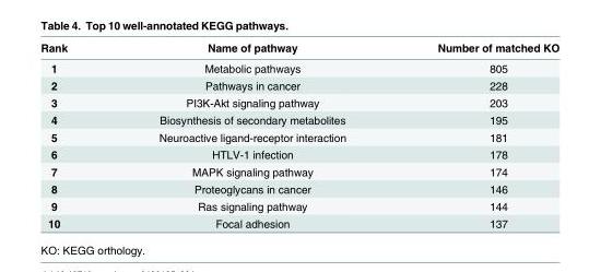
<table><thead><tr><td>Rank</td><td>Name of pathway</td><td>Number of matched KO</td></tr></thead><tbody><tr><td>1</td><td>Metabolic pathways</td><td>805</td></tr><tr><td>2</td><td>Pathways in cancer</td><td>228</td></tr><tr><td>3</td><td>PI3K-Akt signaling pathway</td><td>203</td></tr><tr><td>4</td><td>Biosynthesis of secondary metabolites</td><td>195</td></tr><tr><td>5</td><td>Neuroactive ligand-receptor interaction</td><td>181</td></tr><tr><td>6</td><td>HTLV-1 infection</td><td>178</td></tr><tr><td>7</td><td>MAPK signaling pathway</td><td>174</td></tr><tr><td>8</td><td>Proteoglycans in cancer</td><td>146</td></tr><tr><td>9</td><td>Ras signaling pathway</td><td>144</td></tr><tr><td>10</td><td>Focal adhesion</td><td>137</td></tr></tbody></table>